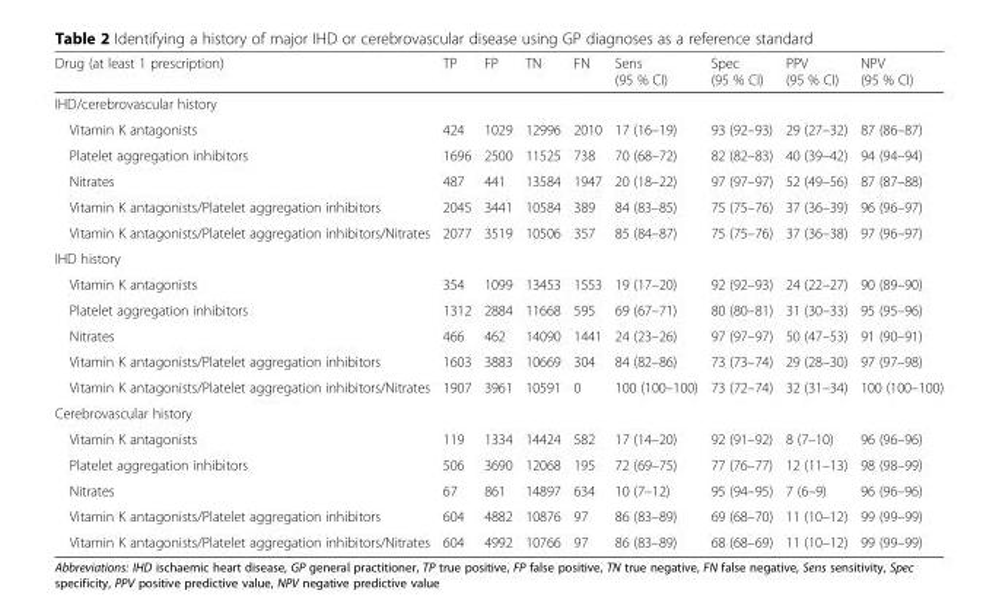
<table><thead><tr><td>Drug (at least 1 prescription)</td><td>TP</td><td>FP</td><td>TN</td><td>FN</td><td>Sens (95 % CI)</td><td>Spec (95 % CI)</td><td>PPV (95 % CI)</td><td>NPV (95 % CI)</td></tr></thead><tbody><tr><td colspan="9">IHD/cerebrovascular history</td></tr><tr><td>Vitamin K antagonists</td><td>424</td><td>1029</td><td>12996</td><td>2010</td><td>17 (16–19)</td><td>93 (92–93)</td><td>29 (27–32)</td><td>87 (86–87)</td></tr><tr><td>Platelet aggregation inhibitors</td><td>1696</td><td>2500</td><td>11525</td><td>738</td><td>70 (68–72)</td><td>82 (82–83)</td><td>40 (39–42)</td><td>94 (94–94)</td></tr><tr><td>Nitrates</td><td>487</td><td>441</td><td>13584</td><td>1947</td><td>20 (18–22)</td><td>97 (97–97)</td><td>52 (49–56)</td><td>87 (87–88)</td></tr><tr><td>Vitamin K antagonists/Platelet aggregation inhibitors</td><td>2045</td><td>3441</td><td>10584</td><td>389</td><td>84 (83–85)</td><td>75 (75–76)</td><td>37 (36–39)</td><td>96 (96–97)</td></tr><tr><td>Vitamin K antagonists/Platelet aggregation inhibitors/Nitrates</td><td>2077</td><td>3519</td><td>10506</td><td>357</td><td>85 (84–87)</td><td>75 (75–76)</td><td>37 (36–38)</td><td>97 (96–97)</td></tr><tr><td colspan="9">IHD history</td></tr><tr><td>Vitamin K antagonists</td><td>354</td><td>1099</td><td>13453</td><td>1553</td><td>19 (17–20)</td><td>92 (92–93)</td><td>24 (22–27)</td><td>90 (89–90)</td></tr><tr><td>Platelet aggregation inhibitors</td><td>1312</td><td>2884</td><td>11668</td><td>595</td><td>69 (67–71)</td><td>80 (80–81)</td><td>31 (30–33)</td><td>95 (95–96)</td></tr><tr><td>Nitrates</td><td>466</td><td>462</td><td>14090</td><td>1441</td><td>24 (23–26)</td><td>97 (97–97)</td><td>50 (47–53)</td><td>91 (90–91)</td></tr><tr><td>Vitamin K antagonists/Platelet aggregation inhibitors</td><td>1603</td><td>3883</td><td>10669</td><td>304</td><td>84 (82–86)</td><td>73 (73–74)</td><td>29 (28–30)</td><td>97 (97–98)</td></tr><tr><td>Vitamin K antagonists/Platelet aggregation inhibitors/Nitrates</td><td>1907</td><td>3961</td><td>10591</td><td>0</td><td>100 (100–100)</td><td>73 (72–74)</td><td>32 (31–34)</td><td>100 (100–100)</td></tr><tr><td colspan="9">Cerebrovascular history</td></tr><tr><td>Vitamin K antagonists</td><td>119</td><td>1334</td><td>14424</td><td>582</td><td>17 (14–20)</td><td>92 (91–92)</td><td>8 (7–10)</td><td>96 (96–96)</td></tr><tr><td>Platelet aggregation inhibitors</td><td>506</td><td>3690</td><td>12068</td><td>195</td><td>72 (69–75)</td><td>77 (76–77)</td><td>12 (11–13)</td><td>98 (98–99)</td></tr><tr><td>Nitrates</td><td>67</td><td>861</td><td>14897</td><td>634</td><td>10 (7–12)</td><td>95 (94–95)</td><td>7 (6–9)</td><td>96 (96–96)</td></tr><tr><td>Vitamin K antagonists/Platelet aggregation inhibitors</td><td>604</td><td>4882</td><td>10876</td><td>97</td><td>86 (83–89)</td><td>69 (68–70)</td><td>11 (10–12)</td><td>99 (99–99)</td></tr><tr><td>Vitamin K antagonists/Platelet aggregation inhibitors/Nitrates</td><td>604</td><td>4992</td><td>10766</td><td>97</td><td>86 (83–89)</td><td>68 (68–69)</td><td>11 (10–12)</td><td>99 (99–99)</td></tr></tbody></table>